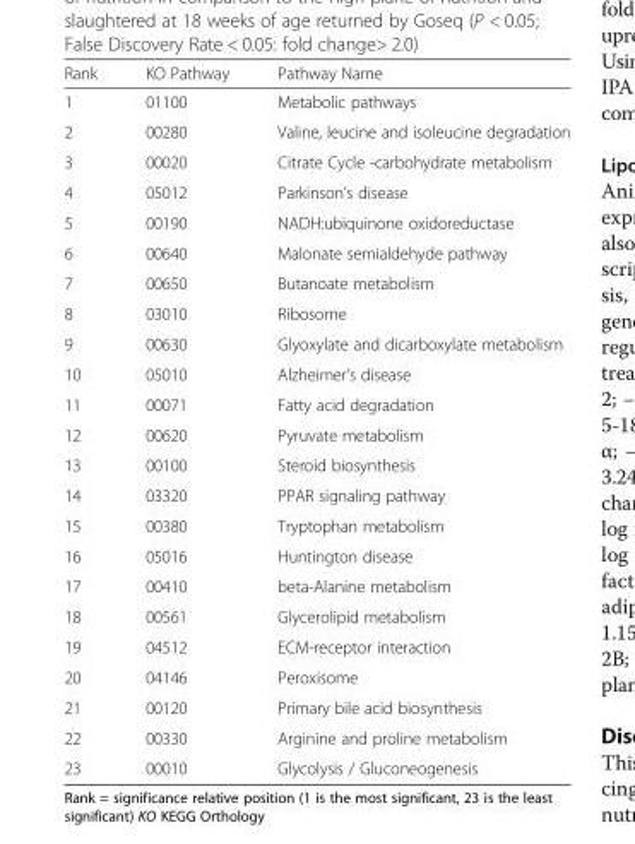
<table><thead><tr><td>Rank</td><td>KO Pathway</td><td>Pathway Name</td></tr></thead><tbody><tr><td>1</td><td>01100</td><td>Metabolic pathways</td></tr><tr><td>2</td><td>00280</td><td>Valine, leucine and isoleucine degradation</td></tr><tr><td>3</td><td>00020</td><td>Citrate Cycle -carbohydrate metabolism</td></tr><tr><td>4</td><td>05012</td><td>Parkinson’s disease</td></tr><tr><td>5</td><td>00190</td><td>NADH:ubiquinone oxidoreductase</td></tr><tr><td>6</td><td>00640</td><td>Malonate semialdehyde pathway</td></tr><tr><td>7</td><td>00650</td><td>Butanoate metabolism</td></tr><tr><td>8</td><td>03010</td><td>Ribosome</td></tr><tr><td>9</td><td>00630</td><td>Glyoxylate and dicarboxylate metabolism</td></tr><tr><td>10</td><td>05010</td><td>Alzheimer’s disease</td></tr><tr><td>11</td><td>00071</td><td>Fatty acid degradation</td></tr><tr><td>12</td><td>00620</td><td>Pyruvate metabolism</td></tr><tr><td>13</td><td>00100</td><td>Steroid biosynthesis</td></tr><tr><td>14</td><td>03320</td><td>PPAR signaling pathway</td></tr><tr><td>15</td><td>00380</td><td>Tryptophan metabolism</td></tr><tr><td>16</td><td>05016</td><td>Huntington disease</td></tr><tr><td>17</td><td>00410</td><td>beta-Alanine metabolism</td></tr><tr><td>18</td><td>00561</td><td>Glycerolipid metabolism</td></tr><tr><td>19</td><td>04512</td><td>ECM-receptor interaction</td></tr><tr><td>20</td><td>04146</td><td>Peroxisome</td></tr><tr><td>21</td><td>00120</td><td>Primary bile acid biosynthesis</td></tr><tr><td>22</td><td>00330</td><td>Arginine and proline metabolism</td></tr><tr><td>23</td><td>00010</td><td>Glycolysis / Gluconeogenesis</td></tr></tbody></table>